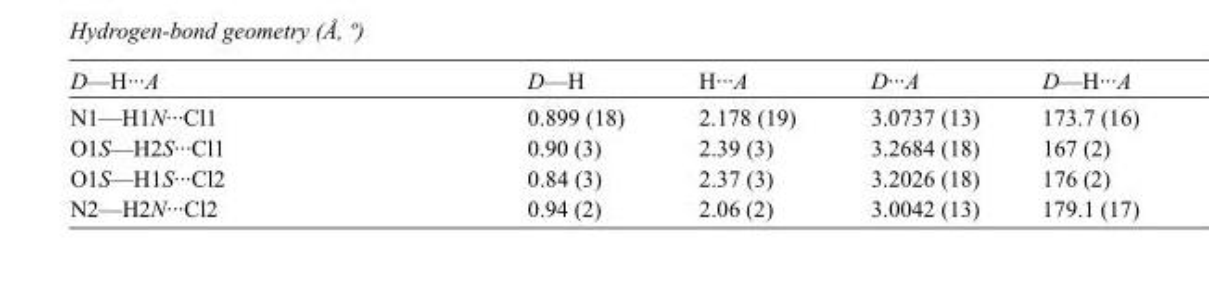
<table><tbody><tr><td>D—H···A</td><td>D—H</td><td>H···A</td><td>D···A</td><td>D—H···A</td></tr><tr><td>N1—H1N···Cl1</td><td>0.899 (18)</td><td>2.178 (19)</td><td>3.0737 (13)</td><td>173.7 (16)</td></tr><tr><td>O1S—H2S···Cl1</td><td>0.90 (3)</td><td>2.39 (3)</td><td>3.2684 (18)</td><td>167 (2)</td></tr><tr><td>O1S—H1S···Cl2</td><td>0.84 (3)</td><td>2.37 (3)</td><td>3.2026 (18)</td><td>176 (2)</td></tr><tr><td>N2—H2N···Cl2</td><td>0.94 (2)</td><td>2.06 (2)</td><td>3.0042 (13)</td><td>179.1 (17)</td></tr></tbody></table>